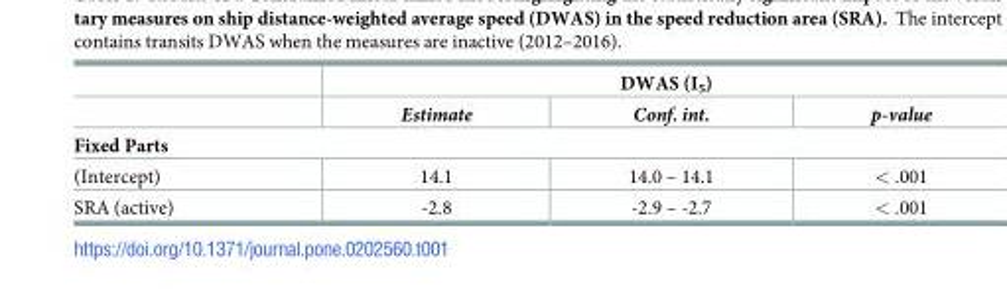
<table><thead><tr><td rowspan="2"></td><td colspan="3">DWAS (I<sub>5</sub>)</td></tr><tr><td>Estimate</td><td>Conf. int.</td><td>p-value</td></tr></thead><tbody><tr><td colspan="4">Fixed Parts</td></tr><tr><td>(Intercept)</td><td>14.1</td><td>14.0 – 14.1</td><td>&lt; .001</td></tr><tr><td>SRA (active)</td><td>-2.8</td><td>-2.9 – -2.7</td><td>&lt; .001</td></tr></tbody></table>